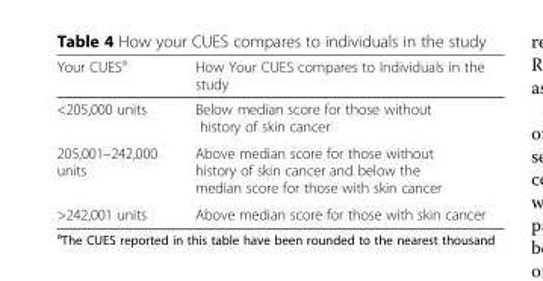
<table><thead><tr><td>Your CUES<sup>a</sup></td><td>How Your CUES compares to Individuals in the study</td></tr></thead><tbody><tr><td>&lt;205,000 units</td><td>Below median score for those without history of skin cancer</td></tr><tr><td>205,001–242,000 units</td><td>Above median score for those without history of skin cancer and below the median score for those with skin cancer</td></tr><tr><td>&gt;242,001 units</td><td>Above median score for those with skin cancer</td></tr></tbody></table>